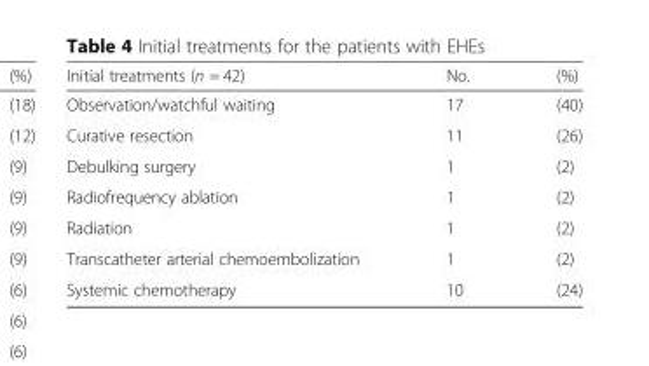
<table><thead><tr><td>Initial treatments (n = 42)</td><td>No.</td><td>(%)</td></tr></thead><tbody><tr><td>Observation/watchful waiting</td><td>17</td><td>(40)</td></tr><tr><td>Curative resection</td><td>11</td><td>(26)</td></tr><tr><td>Debulking surgery</td><td>1</td><td>(2)</td></tr><tr><td>Radiofrequency ablation</td><td>1</td><td>(2)</td></tr><tr><td>Radiation</td><td>1</td><td>(2)</td></tr><tr><td>Transcatheter arterial chemoembolization</td><td>1</td><td>(2)</td></tr><tr><td>Systemic chemotherapy</td><td>10</td><td>(24)</td></tr></tbody></table>